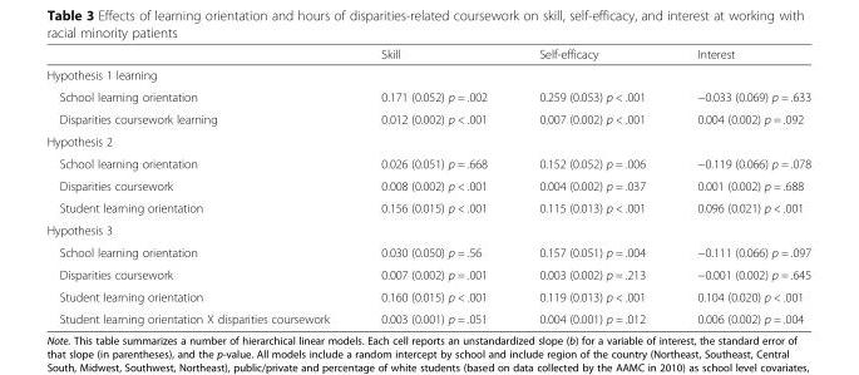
<table><thead><tr><td></td><td>Skill</td><td>Self-efficacy</td><td>Interest</td></tr></thead><tbody><tr><td colspan="4">Hypothesis 1 learning</td></tr><tr><td>School learning orientation</td><td>0.171 (0.052) p = .002</td><td>0.259 (0.053) p &lt; .001</td><td>−0.033 (0.069) p = .633</td></tr><tr><td>Disparities coursework learning</td><td>0.012 (0.002) p &lt; .001</td><td>0.007 (0.002) p &lt; .001</td><td>0.004 (0.002) p = .092</td></tr><tr><td colspan="4">Hypothesis 2</td></tr><tr><td>School learning orientation</td><td>0.026 (0.051) p = .668</td><td>0.152 (0.052) p = .006</td><td>−0.119 (0.066) p = .078</td></tr><tr><td>Disparities coursework</td><td>0.008 (0.002) p &lt; .001</td><td>0.004 (0.002) p = .037</td><td>0.001 (0.002) p = .688</td></tr><tr><td>Student learning orientation</td><td>0.156 (0.015) p &lt; .001</td><td>0.115 (0.013) p &lt; .001</td><td>0.096 (0.021) p &lt; .001</td></tr><tr><td colspan="4">Hypothesis 3</td></tr><tr><td>School learning orientation</td><td>0.030 (0.050) p = .56</td><td>0.157 (0.051) p = .004</td><td>−0.111 (0.066) p = .097</td></tr><tr><td>Disparities coursework</td><td>0.007 (0.002) p = .001</td><td>0.003 (0.002) p = .213</td><td>−0.001 (0.002) p = .645</td></tr><tr><td>Student learning orientation</td><td>0.160 (0.015) p &lt; .001</td><td>0.119 (0.013) p &lt; .001</td><td>0.104 (0.020) p &lt; .001</td></tr><tr><td>Student learning orientation X disparities coursework</td><td>0.003 (0.001) p = .051</td><td>0.004 (0.001) p = .012</td><td>0.006 (0.002) p = .004</td></tr></tbody></table>